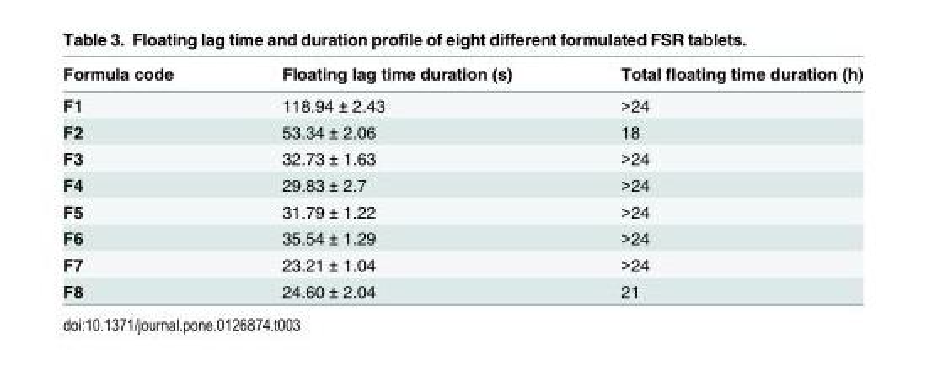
<table><thead><tr><td>Formula code</td><td>Floating lag time duration (s)</td><td>Total floating time duration (h)</td></tr></thead><tbody><tr><td>F1</td><td>118.94 ± 2.43</td><td>&gt;24</td></tr><tr><td>F2</td><td>53.34 ± 2.06</td><td>18</td></tr><tr><td>F3</td><td>32.73 ± 1.63</td><td>&gt;24</td></tr><tr><td>F4</td><td>29.83 ± 2.7</td><td>&gt;24</td></tr><tr><td>F5</td><td>31.79 ± 1.22</td><td>&gt;24</td></tr><tr><td>F6</td><td>35.54 ± 1.29</td><td>&gt;24</td></tr><tr><td>F7</td><td>23.21 ± 1.04</td><td>&gt;24</td></tr><tr><td>F8</td><td>24.60 ± 2.04</td><td>21</td></tr></tbody></table>